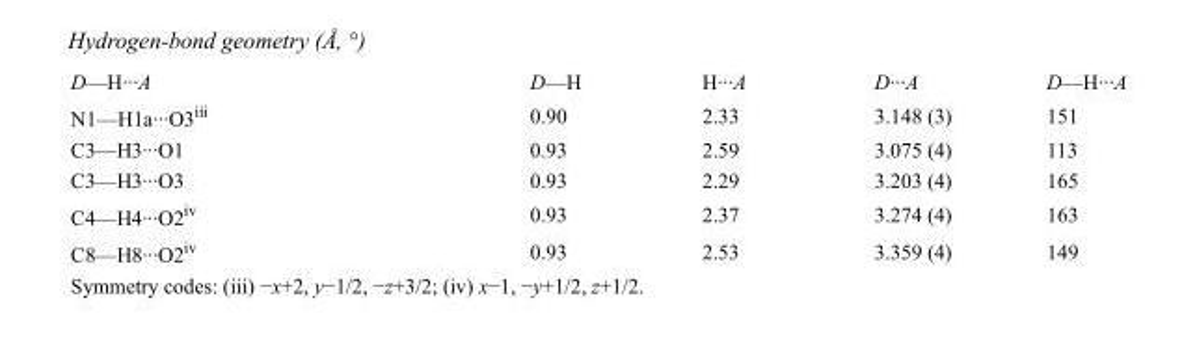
<table><tbody><tr><td>D—H···A</td><td>D—H</td><td>H···A</td><td>D···A</td><td>D—H···A</td></tr><tr><td>N1—H1a···O3<sup>iii</sup></td><td>0.90</td><td>2.33</td><td>3.148 (3)</td><td>151</td></tr><tr><td>C3—H3···O1</td><td>0.93</td><td>2.59</td><td>3.075 (4)</td><td>113</td></tr><tr><td>C3—H3···O3</td><td>0.93</td><td>2.29</td><td>3.203 (4)</td><td>165</td></tr><tr><td>C4—H4···O2<sup>iv</sup></td><td>0.93</td><td>2.37</td><td>3.274 (4)</td><td>163</td></tr><tr><td>C8—H8···O2<sup>iv</sup></td><td>0.93</td><td>2.53</td><td>3.359 (4)</td><td>149</td></tr></tbody></table>